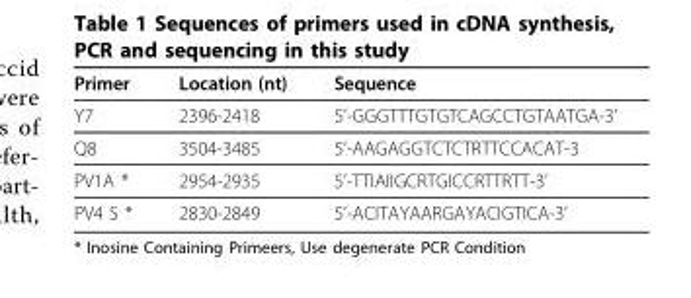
<table><thead><tr><td>Primer</td><td>Location (nt)</td><td>Sequence</td></tr></thead><tbody><tr><td>Y7</td><td>2396-2418</td><td>5’-GGGTTTGTGTCAGCCTGTAATGA-3’</td></tr><tr><td>Q8</td><td>3504-3485</td><td>5’-AAGAGGTCTCTRTTCCACAT-3</td></tr><tr><td>PV1A *</td><td>2954-2935</td><td>5’-TTIAIIGCRTGICCRTTRTT-3’</td></tr><tr><td>PV4 S *</td><td>2830-2849</td><td>5’-ACITAYAARGAYACIGTICA-3’</td></tr></tbody></table>